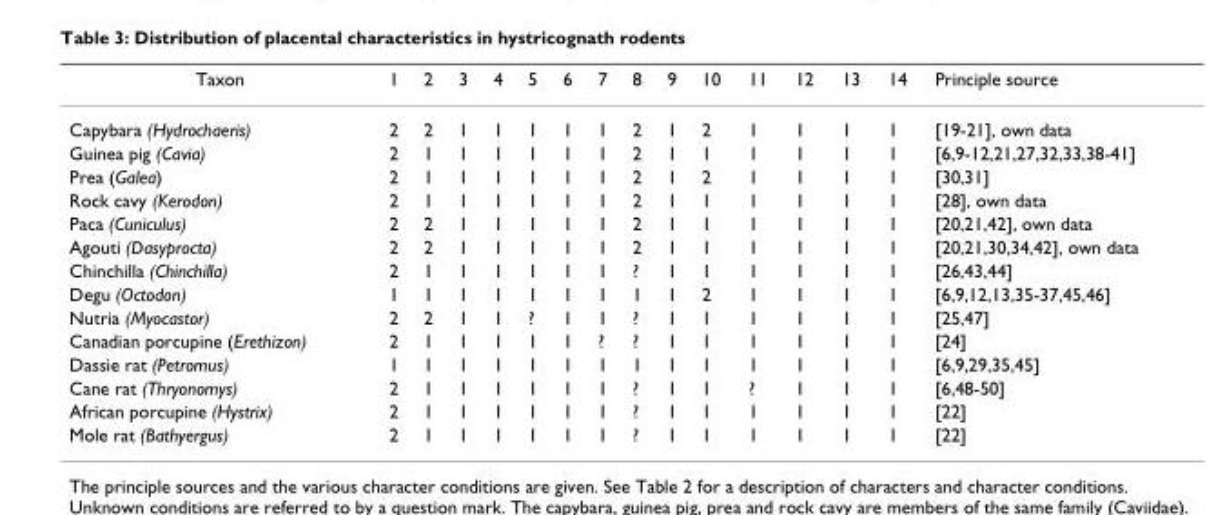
<table><thead><tr><td>Taxon</td><td>1</td><td>2</td><td>3</td><td>4</td><td>5</td><td>6</td><td>7</td><td>8</td><td>9</td><td>10</td><td>11</td><td>12</td><td>13</td><td>14</td><td>Principle source</td></tr></thead><tbody><tr><td>Capybara (Hydrochaeris)</td><td>2</td><td>2</td><td>1</td><td>1</td><td>1</td><td>1</td><td>1</td><td>2</td><td>1</td><td>2</td><td>1</td><td>1</td><td>1</td><td>1</td><td>[19-21], own data</td></tr><tr><td>Guinea pig (Cavia)</td><td>2</td><td>1</td><td>1</td><td>1</td><td>1</td><td>1</td><td>1</td><td>2</td><td>1</td><td>1</td><td>1</td><td>1</td><td>1</td><td>1</td><td>[6,9-12,21,27,32,33,38-41]</td></tr><tr><td>Prea (Galea)</td><td>2</td><td>1</td><td>1</td><td>1</td><td>1</td><td>1</td><td>1</td><td>2</td><td>1</td><td>2</td><td>1</td><td>1</td><td>1</td><td>1</td><td>[30,31]</td></tr><tr><td>Rock cavy (Kerodon)</td><td>2</td><td>1</td><td>1</td><td>1</td><td>1</td><td>1</td><td>1</td><td>2</td><td>1</td><td>1</td><td>1</td><td>1</td><td>1</td><td>1</td><td>[28], own data</td></tr><tr><td>Paca (Cuniculus)</td><td>2</td><td>2</td><td>1</td><td>1</td><td>1</td><td>1</td><td>1</td><td>2</td><td>1</td><td>1</td><td>1</td><td>1</td><td>1</td><td>1</td><td>[20,21,42], own data</td></tr><tr><td>Agouti (Dasyprocta)</td><td>2</td><td>2</td><td>1</td><td>1</td><td>1</td><td>1</td><td>1</td><td>2</td><td>1</td><td>1</td><td>1</td><td>1</td><td>1</td><td>1</td><td>[20,21,30,34,42], own data</td></tr><tr><td>Chinchilla (Chinchilla)</td><td>2</td><td>1</td><td>1</td><td>1</td><td>1</td><td>1</td><td>1</td><td>?</td><td>1</td><td>1</td><td>1</td><td>1</td><td>1</td><td>1</td><td>[26,43,44]</td></tr><tr><td>Degu (Octodon)</td><td>1</td><td>1</td><td>1</td><td>1</td><td>1</td><td>1</td><td>1</td><td>1</td><td>1</td><td>2</td><td>1</td><td>1</td><td>1</td><td>1</td><td>[6,9,12,13,35-37,45,46]</td></tr><tr><td>Nutria (Myocastor)</td><td>2</td><td>2</td><td>1</td><td>1</td><td>?</td><td>1</td><td>1</td><td>?</td><td>1</td><td>1</td><td>1</td><td>1</td><td>1</td><td>1</td><td>[25,47]</td></tr><tr><td>Canadian porcupine (Erethizon)</td><td>2</td><td>1</td><td>1</td><td>1</td><td>1</td><td>1</td><td>?</td><td>?</td><td>1</td><td>1</td><td>1</td><td>1</td><td>1</td><td>1</td><td>[24]</td></tr><tr><td>Dassie rat (Petromus)</td><td>1</td><td>1</td><td>1</td><td>1</td><td>1</td><td>1</td><td>1</td><td>1</td><td>1</td><td>1</td><td>1</td><td>1</td><td>1</td><td>1</td><td>[6,9,29,35,45]</td></tr><tr><td>Cane rat (Thryonomys)</td><td>2</td><td>1</td><td>1</td><td>1</td><td>1</td><td>1</td><td>1</td><td>?</td><td>1</td><td>1</td><td>?</td><td>1</td><td>1</td><td>1</td><td>[6,48-50]</td></tr><tr><td>African porcupine (Hystrix)</td><td>2</td><td>1</td><td>1</td><td>1</td><td>1</td><td>1</td><td>1</td><td>?</td><td>1</td><td>1</td><td>1</td><td>1</td><td>1</td><td>1</td><td>[22]</td></tr><tr><td>Mole rat (Bathyergus)</td><td>2</td><td>1</td><td>1</td><td>1</td><td>1</td><td>1</td><td>1</td><td>?</td><td>1</td><td>1</td><td>1</td><td>1</td><td>1</td><td>1</td><td>[22]</td></tr></tbody></table>